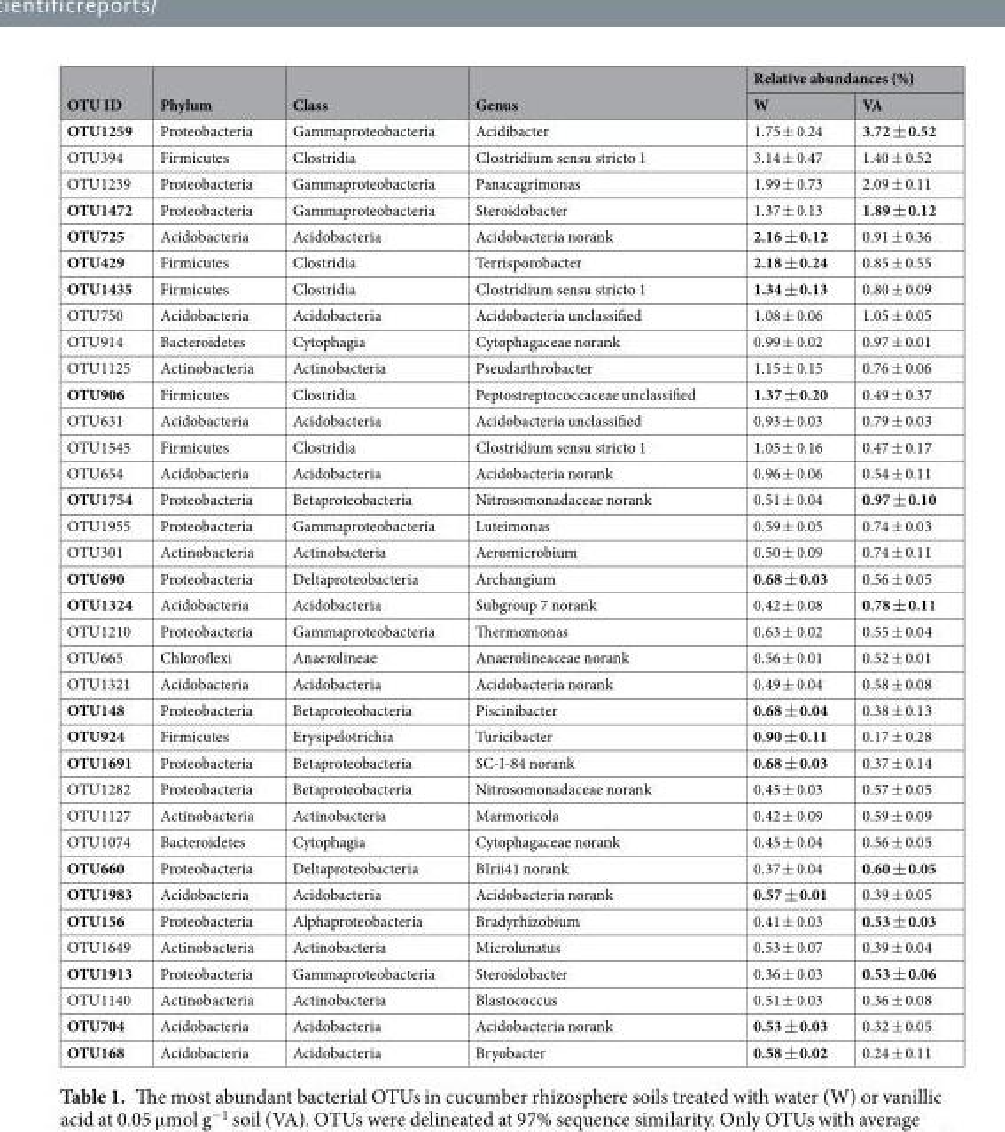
<table><thead><tr><td rowspan="2">OTU ID</td><td rowspan="2">Phylum</td><td rowspan="2">Class</td><td rowspan="2">Genus</td><td colspan="2">Relative abundances (%)</td></tr><tr><td>W</td><td>VA</td></tr></thead><tbody><tr><td>OTU1259</td><td>Proteobacteria</td><td>Gammaproteobacteria</td><td>Acidibacter</td><td>1.75 ± 0.24</td><td>3.72 ± 0.52</td></tr><tr><td>OTU394</td><td>Firmicutes</td><td>Clostridia</td><td>Clostridium sensu stricto 1</td><td>3.14 ± 0.47</td><td>1.40 ± 0.52</td></tr><tr><td>OTU1239</td><td>Proteobacteria</td><td>Gammaproteobacteria</td><td>Panacagrimonas</td><td>1.99 ± 0.73</td><td>2.09 ± 0.11</td></tr><tr><td>OTU1472</td><td>Proteobacteria</td><td>Gammaproteobacteria</td><td>Steroidobacter</td><td>1.37 ± 0.13</td><td>1.89 ± 0.12</td></tr><tr><td>OTU725</td><td>Acidobacteria</td><td>Acidobacteria</td><td>Acidobacteria norank</td><td>2.16 ± 0.12</td><td>0.91 ± 0.36</td></tr><tr><td>OTU429</td><td>Firmicutes</td><td>Clostridia</td><td>Terrisporobacter</td><td>2.18 ± 0.24</td><td>0.85 ± 0.55</td></tr><tr><td>OTU1435</td><td>Firmicutes</td><td>Clostridia</td><td>Clostridium sensu stricto 1</td><td>1.34 ± 0.13</td><td>0.80 ± 0.09</td></tr><tr><td>OTU750</td><td>Acidobacteria</td><td>Acidobacteria</td><td>Acidobacteria unclassified</td><td>1.08 ± 0.06</td><td>1.05 ± 0.05</td></tr><tr><td>OTU914</td><td>Bacteroidetes</td><td>Cytophagia</td><td>Cytophagaceae norank</td><td>0.99 ± 0.02</td><td>0.97 ± 0.01</td></tr><tr><td>OTU1125</td><td>Actinobacteria</td><td>Actinobacteria</td><td>Pseudarthrobacter</td><td>1.15 ± 0.15</td><td>0.76 ± 0.06</td></tr><tr><td>OTU906</td><td>Firmicutes</td><td>Clostridia</td><td>Peptostreptococcaceae unclassified</td><td>1.37 ± 0.20</td><td>0.49 ± 0.37</td></tr><tr><td>OTU631</td><td>Acidobacteria</td><td>Acidobacteria</td><td>Acidobacteria unclassified</td><td>0.93 ± 0.03</td><td>0.79 ± 0.03</td></tr><tr><td>OTU1545</td><td>Firmicutes</td><td>Clostridia</td><td>Clostridium sensu stricto 1</td><td>1.05 ± 0.16</td><td>0.47 ± 0.17</td></tr><tr><td>OTU654</td><td>Acidobacteria</td><td>Acidobacteria</td><td>Acidobacteria norank</td><td>0.96 ± 0.06</td><td>0.54 ± 0.11</td></tr><tr><td>OTU1754</td><td>Proteobacteria</td><td>Betaproteobacteria</td><td>Nitrosomonadaceae norank</td><td>0.51 ± 0.04</td><td>0.97 ± 0.10</td></tr><tr><td>OTU1955</td><td>Proteobacteria</td><td>Gammaproteobacteria</td><td>Luteimonas</td><td>0.59 ± 0.05</td><td>0.74 ± 0.03</td></tr><tr><td>OTU301</td><td>Actinobacteria</td><td>Actinobacteria</td><td>Aeromicrobium</td><td>0.50 ± 0.09</td><td>0.74 ± 0.11</td></tr><tr><td>OTU690</td><td>Proteobacteria</td><td>Deltaproteobacteria</td><td>Archangium</td><td>0.68 ± 0.03</td><td>0.56 ± 0.05</td></tr><tr><td>OTU1324</td><td>Acidobacteria</td><td>Acidobacteria</td><td>Subgroup 7 norank</td><td>0.42 ± 0.08</td><td>0.78 ± 0.11</td></tr><tr><td>OTU1210</td><td>Proteobacteria</td><td>Gammaproteobacteria</td><td>Thermomonas</td><td>0.63 ± 0.02</td><td>0.55 ± 0.04</td></tr><tr><td>OTU665</td><td>Chloroflexi</td><td>Anaerolineae</td><td>Anaerolineaceae norank</td><td>0.56 ± 0.01</td><td>0.52 ± 0.01</td></tr><tr><td>OTU1321</td><td>Acidobacteria</td><td>Acidobacteria</td><td>Acidobacteria norank</td><td>0.49 ± 0.04</td><td>0.58 ± 0.08</td></tr><tr><td>OTU148</td><td>Proteobacteria</td><td>Betaproteobacteria</td><td>Piscinibacter</td><td>0.68 ± 0.04</td><td>0.38 ± 0.13</td></tr><tr><td>OTU924</td><td>Firmicutes</td><td>Erysipelotrichia</td><td>Turicibacter</td><td>0.90 ± 0.11</td><td>0.17 ± 0.28</td></tr><tr><td>OTU1691</td><td>Proteobacteria</td><td>Betaproteobacteria</td><td>SC-I-84 norank</td><td>0.68 ± 0.03</td><td>0.37 ± 0.14</td></tr><tr><td>OTU1282</td><td>Proteobacteria</td><td>Betaproteobacteria</td><td>Nitrosomonadaceae norank</td><td>0.45 ± 0.03</td><td>0.57 ± 0.05</td></tr><tr><td>OTU1127</td><td>Actinobacteria</td><td>Actinobacteria</td><td>Marmoricola</td><td>0.42 ± 0.09</td><td>0.59 ± 0.09</td></tr><tr><td>OTU1074</td><td>Bacteroidetes</td><td>Cytophagia</td><td>Cytophagaceae norank</td><td>0.45 ± 0.04</td><td>0.56 ± 0.05</td></tr><tr><td>OTU660</td><td>Proteobacteria</td><td>Deltaproteobacteria</td><td>BIrii41 norank</td><td>0.37 ± 0.04</td><td>0.60 ± 0.05</td></tr><tr><td>OTU1983</td><td>Acidobacteria</td><td>Acidobacteria</td><td>Acidobacteria norank</td><td>0.57 ± 0.01</td><td>0.39 ± 0.05</td></tr><tr><td>OTU156</td><td>Proteobacteria</td><td>Alphaproteobacteria</td><td>Bradyrhizobium</td><td>0.41 ± 0.03</td><td>0.53 ± 0.03</td></tr><tr><td>OTU1649</td><td>Actinobacteria</td><td>Actinobacteria</td><td>Microlunatus</td><td>0.53 ± 0.07</td><td>0.39 ± 0.04</td></tr><tr><td>OTU1913</td><td>Proteobacteria</td><td>Gammaproteobacteria</td><td>Steroidobacter</td><td>0.36 ± 0.03</td><td>0.53 ± 0.06</td></tr><tr><td>OTU1140</td><td>Actinobacteria</td><td>Actinobacteria</td><td>Blastococcus</td><td>0.51 ± 0.03</td><td>0.36 ± 0.08</td></tr><tr><td>OTU704</td><td>Acidobacteria</td><td>Acidobacteria</td><td>Acidobacteria norank</td><td>0.53 ± 0.03</td><td>0.32 ± 0.05</td></tr><tr><td>OTU168</td><td>Acidobacteria</td><td>Acidobacteria</td><td>Bryobacter</td><td>0.58 ± 0.02</td><td>0.24 ± 0.11</td></tr></tbody></table>